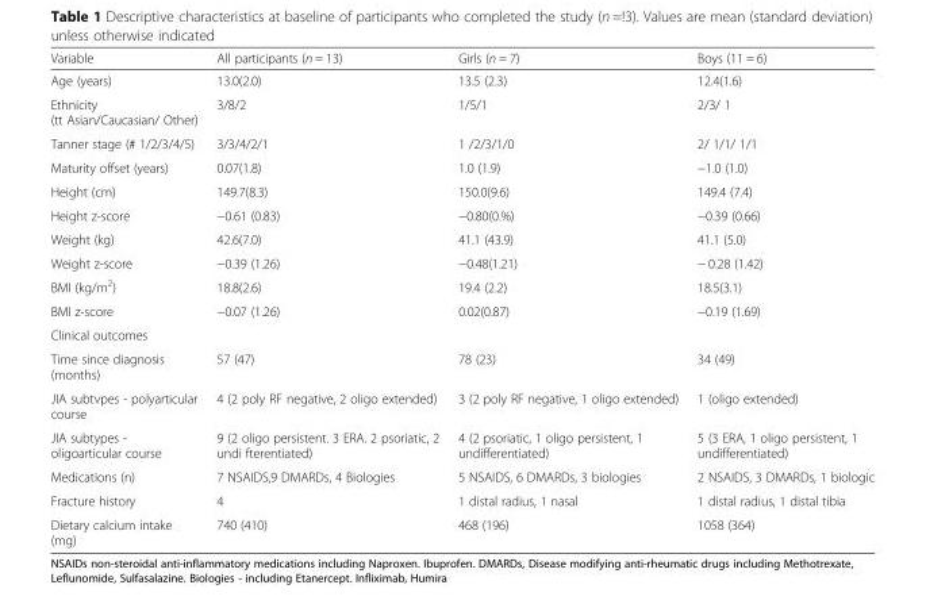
<table><thead><tr><td>Variable</td><td>All participants (n = 13)</td><td>Girls (n = 7)</td><td>Boys (11 = 6)</td></tr></thead><tbody><tr><td>Age (years)</td><td>13.0(2.0)</td><td>13.5 (2.3)</td><td>12.4(1.6)</td></tr><tr><td>Ethnicity (tt Asian/Caucasian/ Other)</td><td>3/8/2</td><td>1/5/1</td><td>2/3/ 1</td></tr><tr><td>Tanner stage (# 1/2/3/4/5)</td><td>3/3/4/2/1</td><td>1 /2/3/1/0</td><td>2/ 1/1/ 1/1</td></tr><tr><td>Maturity offset (years)</td><td>0.07(1.8)</td><td>1.0 (1.9)</td><td>−1.0 (1.0)</td></tr><tr><td>Height (cm)</td><td>149.7(8.3)</td><td>150.0(9.6)</td><td>149.4 (7.4)</td></tr><tr><td>Height z-score</td><td>−0.61 (0.83)</td><td>−0.80(0.%)</td><td>−0.39 (0.66)</td></tr><tr><td>Weight (kg)</td><td>42.6(7.0)</td><td>41.1 (43.9)</td><td>41.1 (5.0)</td></tr><tr><td>Weight z-score</td><td>−0.39 (1.26)</td><td>−0.48(1.21)</td><td>− 0.28 (1.42)</td></tr><tr><td>BMI (kg/m<sup>2</sup>)</td><td>18.8(2.6)</td><td>19.4 (2.2)</td><td>18.5(3.1)</td></tr><tr><td>BMI z-score</td><td>−0.07 (1.26)</td><td>0.02(0.87)</td><td>−0.19 (1.69)</td></tr><tr><td colspan="4">Clinical outcomes</td></tr><tr><td>Time since diagnosis (months)</td><td>57 (47)</td><td>78 (23)</td><td>34 (49)</td></tr><tr><td>JIA subtvpes - polyarticular course</td><td>4 (2 poly RF negative, 2 oligo extended)</td><td>3 (2 poly RF negative, 1 oligo extended)</td><td>1 (oligo extended)</td></tr><tr><td>JIA subtypes - oligoarticular course</td><td>9 (2 oligo persistent. 3 ERA. 2 psoriatic, 2 undi fterentiated)</td><td>4 (2 psoriatic, 1 oligo persistent, 1 undifferentiated)</td><td>5 (3 ERA, 1 oligo persistent, 1 undifferentiated)</td></tr><tr><td>Medications (n)</td><td>7 NSAIDS,9 DMARDs, 4 Biologies</td><td>5 NSAIDS, 6 DMARDs, 3 biologies</td><td>2 NSAIDS, 3 DMARDs, 1 biologic</td></tr><tr><td>Fracture history</td><td>4</td><td>1 distal radius, 1 nasal</td><td>1 distal radius, 1 distal tibia</td></tr><tr><td>Dietary calcium intake (mg)</td><td>740 (410)</td><td>468 (196)</td><td>1058 (364)</td></tr></tbody></table>